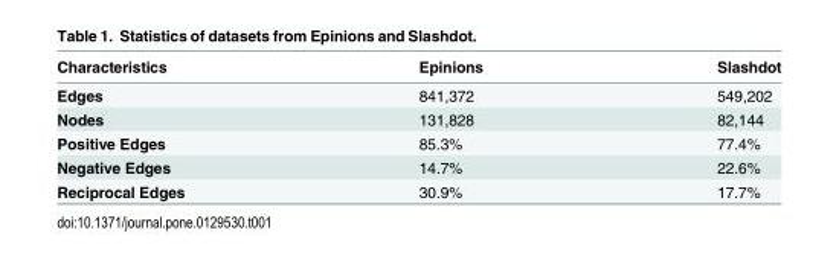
<table><thead><tr><td>Characteristics</td><td>Epinions</td><td>Slashdot</td></tr></thead><tbody><tr><td>Edges</td><td>841,372</td><td>549,202</td></tr><tr><td>Nodes</td><td>131,828</td><td>82,144</td></tr><tr><td>Positive Edges</td><td>85.3%</td><td>77.4%</td></tr><tr><td>Negative Edges</td><td>14.7%</td><td>22.6%</td></tr><tr><td>Reciprocal Edges</td><td>30.9%</td><td>17.7%</td></tr></tbody></table>